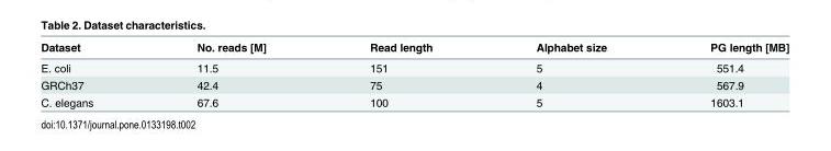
<table><thead><tr><td>Dataset</td><td>No. reads [M]</td><td>Read length</td><td>Alphabet size</td><td>PG length [MB]</td></tr></thead><tbody><tr><td>E. coli</td><td>11.5</td><td>151</td><td>5</td><td>551.4</td></tr><tr><td>GRCh37</td><td>42.4</td><td>75</td><td>4</td><td>567.9</td></tr><tr><td>C. elegans</td><td>67.6</td><td>100</td><td>5</td><td>1603.1</td></tr></tbody></table>